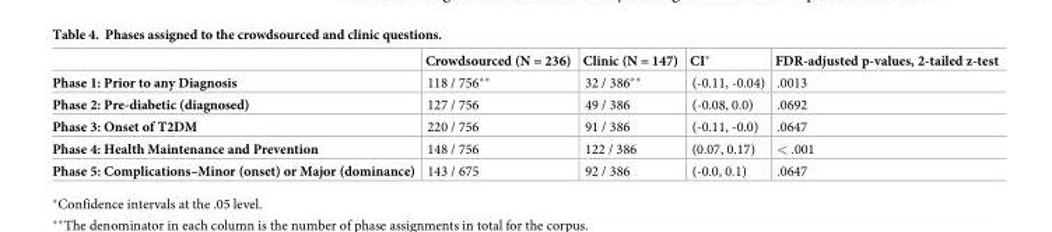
<table><thead><tr><td></td><td>Crowdsourced (N = 236)</td><td>Clinic (N = 147)</td><td>CI*</td><td>FDR-adjusted p-values, 2-tailed z-test</td></tr></thead><tbody><tr><td>Phase 1: Prior to any Diagnosis</td><td>118 / 756**</td><td>32 / 386**</td><td>(-0.11, -0.04)</td><td>.0013</td></tr><tr><td>Phase 2: Pre-diabetic (diagnosed)</td><td>127 / 756</td><td>49 / 386</td><td>(-0.08, 0.0)</td><td>.0692</td></tr><tr><td>Phase 3: Onset of T2DM</td><td>220 / 756</td><td>91 / 386</td><td>(-0.11, -0.0)</td><td>.0647</td></tr><tr><td>Phase 4: Health Maintenance and Prevention</td><td>148 / 756</td><td>122 / 386</td><td>(0.07, 0.17)</td><td>&lt; .001</td></tr><tr><td>Phase 5: Complications–Minor (onset) or Major (dominance)</td><td>143 / 675</td><td>92 / 386</td><td>(-0.0, 0.1)</td><td>.0647</td></tr></tbody></table>